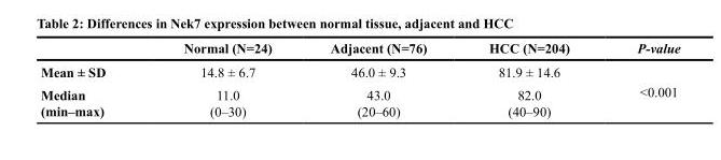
<table><thead><tr><td></td><td>Normal (N=24)</td><td>Adjacent (N=76)</td><td>HCC (N=204)</td><td>P-value</td></tr></thead><tbody><tr><td>Mean ± SD</td><td>14.8 ± 6.7</td><td>46.0 ± 9.3</td><td>81.9 ± 14.6</td><td rowspan="2">&lt;0.001</td></tr><tr><td>Median (min–max)</td><td>11.0 (0–30)</td><td>43.0 (20–60)</td><td>82.0 (40–90)</td></tr></tbody></table>